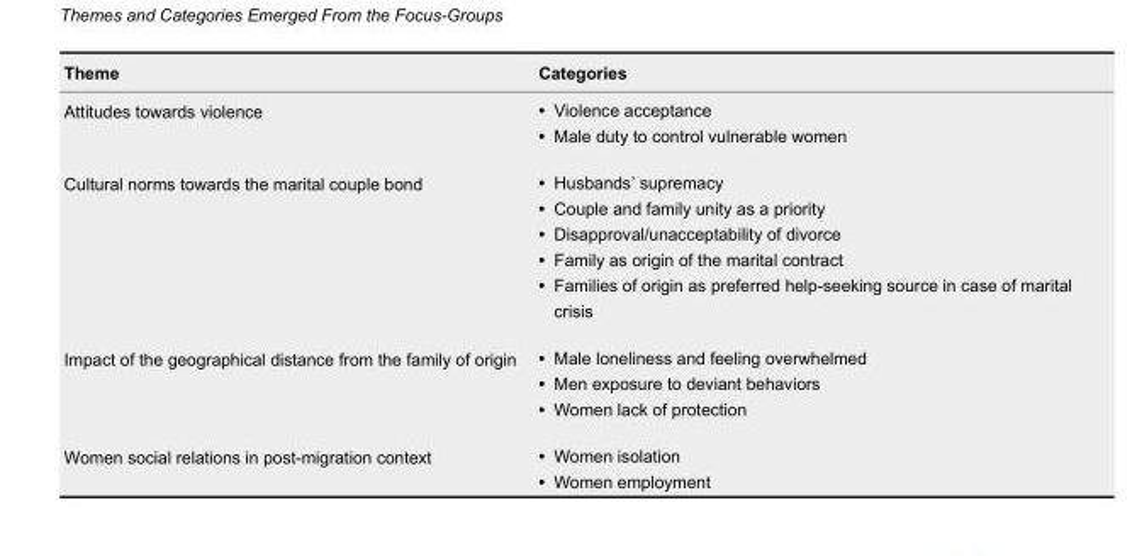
<table><thead><tr><td>Theme</td><td>Categories</td></tr></thead><tbody><tr><td>Attitudes towards violence</td><td>• Violence acceptance • Male duty to control vulnerable women</td></tr><tr><td>Cultural norms towards the marital couple bond</td><td>• Husbands’ supremacy • Couple and family unity as a priority • Disapproval/unacceptability of divorce • Family as origin of the marital contract • Families of origin as preferred help-seeking source in case of marital crisis</td></tr><tr><td>Impact of the geographical distance from the family of origin</td><td>• Male loneliness and feeling overwhelmed • Men exposure to deviant behaviors • Women lack of protection</td></tr><tr><td>Women social relations in post-migration context</td><td>• Women isolation • Women employment</td></tr></tbody></table>